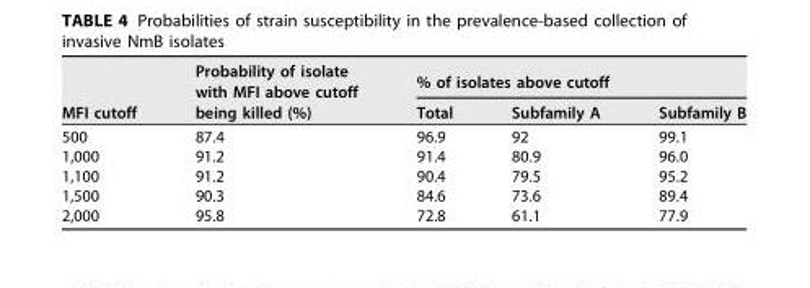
<table><thead><tr><td rowspan="2">MFI cutoff</td><td rowspan="2">Probability of isolate with MFI above cutoff being killed (%)</td><td colspan="3">% of isolates above cutoff</td></tr><tr><td>Total</td><td>Subfamily A</td><td>Subfamily B</td></tr></thead><tbody><tr><td>500</td><td>87.4</td><td>96.9</td><td>92</td><td>99.1</td></tr><tr><td>1,000</td><td>91.2</td><td>91.4</td><td>80.9</td><td>96.0</td></tr><tr><td>1,100</td><td>91.2</td><td>90.4</td><td>79.5</td><td>95.2</td></tr><tr><td>1,500</td><td>90.3</td><td>84.6</td><td>73.6</td><td>89.4</td></tr><tr><td>2,000</td><td>95.8</td><td>72.8</td><td>61.1</td><td>77.9</td></tr></tbody></table>